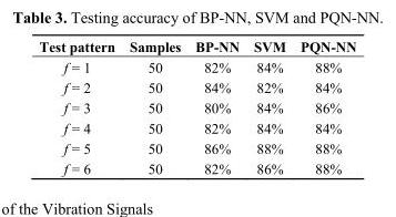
<table><thead><tr><td>Test pattern</td><td>Samples</td><td>BP-NN</td><td>SVM</td><td>PQN-NN</td></tr></thead><tbody><tr><td>f = 1</td><td>50</td><td>82%</td><td>84%</td><td>88%</td></tr><tr><td>f = 2</td><td>50</td><td>84%</td><td>82%</td><td>84%</td></tr><tr><td>f = 3</td><td>50</td><td>80%</td><td>84%</td><td>86%</td></tr><tr><td>f = 4</td><td>50</td><td>82%</td><td>84%</td><td>84%</td></tr><tr><td>f = 5</td><td>50</td><td>86%</td><td>88%</td><td>88%</td></tr><tr><td>f = 6</td><td>50</td><td>82%</td><td>86%</td><td>88%</td></tr></tbody></table>